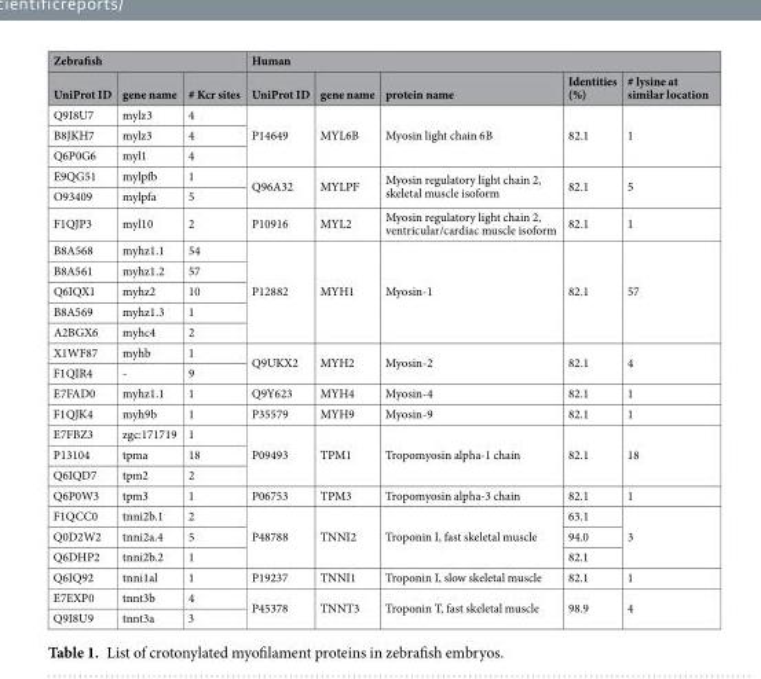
<table><thead><tr><td colspan="3">Zebrafish</td><td colspan="5">Human</td></tr><tr><td>UniProt ID</td><td>gene name</td><td># Kcr sites</td><td>UniProt ID</td><td>gene name</td><td>protein name</td><td>Identities (%)</td><td># lysine at similar location</td></tr></thead><tbody><tr><td>Q9I8U7</td><td>mylz3</td><td>4</td><td rowspan="3">P14649</td><td rowspan="3">MYL6B</td><td rowspan="3">Myosin light chain 6B</td><td rowspan="3">82.1</td><td rowspan="3">1</td></tr><tr><td>B8JKH7</td><td>mylz3</td><td>4</td></tr><tr><td>Q6P0G6</td><td>myl1</td><td>4</td></tr><tr><td>E9QG51</td><td>mylpfb</td><td>1</td><td rowspan="2">Q96A32</td><td rowspan="2">MYLPF</td><td rowspan="2">Myosin regulatory light chain 2, skeletal muscle isoform</td><td rowspan="2">82.1</td><td rowspan="2">5</td></tr><tr><td>O93409</td><td>mylpfa</td><td>5</td></tr><tr><td>F1QJP3</td><td>myl10</td><td>2</td><td>P10916</td><td>MYL2</td><td>Myosin regulatory light chain 2, ventricular/cardiac muscle isoform</td><td>82.1</td><td>1</td></tr><tr><td>B8A568</td><td>myhz1.1</td><td>54</td><td rowspan="5">P12882</td><td rowspan="5">MYH1</td><td rowspan="5">Myosin-1</td><td rowspan="5">82.1</td><td rowspan="5">57</td></tr><tr><td>B8A561</td><td>myhz1.2</td><td>57</td></tr><tr><td>Q6IQX1</td><td>myhz2</td><td>10</td></tr><tr><td>B8A569</td><td>myhz1.3</td><td>1</td></tr><tr><td>A2BGX6</td><td>myhc4</td><td>2</td></tr><tr><td>X1WF87</td><td>myhb</td><td>1</td><td rowspan="2">Q9UKX2</td><td rowspan="2">MYH2</td><td rowspan="2">Myosin-2</td><td rowspan="2">82.1</td><td rowspan="2">4</td></tr><tr><td>F1QIR4</td><td>-</td><td>9</td></tr><tr><td>E7FAD0</td><td>myhz1.1</td><td>1</td><td>Q9Y623</td><td>MYH4</td><td>Myosin-4</td><td>82.1</td><td>1</td></tr><tr><td>F1QJK4</td><td>myh9b</td><td>1</td><td>P35579</td><td>MYH9</td><td>Myosin-9</td><td>82.1</td><td>1</td></tr><tr><td>E7FBZ3</td><td>zgc:171719</td><td>1</td><td rowspan="3">P09493</td><td rowspan="3">TPM1</td><td rowspan="3">Tropomyosin alpha-1 chain</td><td rowspan="3">82.1</td><td rowspan="3">18</td></tr><tr><td>P13104</td><td>tpma</td><td>18</td></tr><tr><td>Q6IQD7</td><td>tpm2</td><td>2</td></tr><tr><td>Q6P0W3</td><td>tpm3</td><td>1</td><td>P06753</td><td>TPM3</td><td>Tropomyosin alpha-3 chain</td><td>82.1</td><td>1</td></tr><tr><td>F1QCC0</td><td>tnni2b.1</td><td>2</td><td rowspan="3">P48788</td><td rowspan="3">TNNI2</td><td rowspan="3">Troponin I, fast skeletal muscle</td><td>63.1</td><td rowspan="3">3</td></tr><tr><td>Q0D2W2</td><td>tnni2a.4</td><td>5</td><td>94.0</td></tr><tr><td>Q6DHP2</td><td>tnni2b.2</td><td>1</td><td>82.1</td></tr><tr><td>Q6IQ92</td><td>tnni1al</td><td>1</td><td>P19237</td><td>TNNI1</td><td>Troponin I, slow skeletal muscle</td><td>82.1</td><td>1</td></tr><tr><td>E7EXP0</td><td>tnnt3b</td><td>4</td><td rowspan="2">P45378</td><td rowspan="2">TNNT3</td><td rowspan="2">Troponin T, fast skeletal muscle</td><td rowspan="2">98.9</td><td rowspan="2">4</td></tr><tr><td>Q9I8U9</td><td>tnnt3a</td><td>3</td></tr></tbody></table>